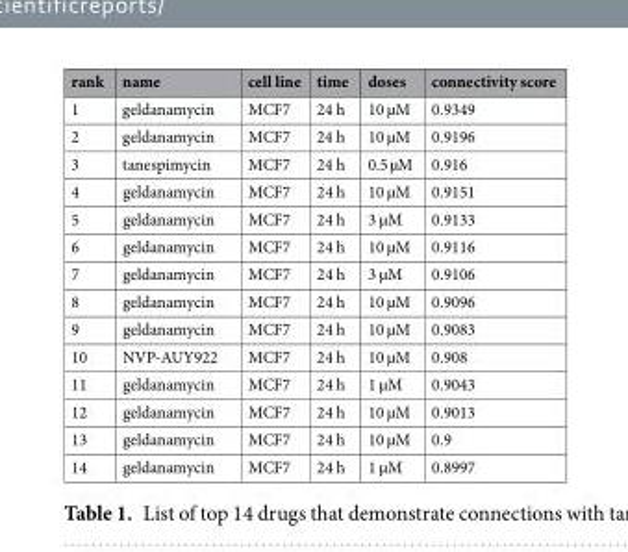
<table><thead><tr><td>rank</td><td>name</td><td>cell line</td><td>time</td><td>doses</td><td>connectivity score</td></tr></thead><tbody><tr><td>1</td><td>geldanamycin</td><td>MCF7</td><td>24 h</td><td>10 µM</td><td>0.9349</td></tr><tr><td>2</td><td>geldanamycin</td><td>MCF7</td><td>24 h</td><td>10 µM</td><td>0.9196</td></tr><tr><td>3</td><td>tanespimycin</td><td>MCF7</td><td>24 h</td><td>0.5 µM</td><td>0.916</td></tr><tr><td>4</td><td>geldanamycin</td><td>MCF7</td><td>24 h</td><td>10 µM</td><td>0.9151</td></tr><tr><td>5</td><td>geldanamycin</td><td>MCF7</td><td>24 h</td><td>3 µM</td><td>0.9133</td></tr><tr><td>6</td><td>geldanamycin</td><td>MCF7</td><td>24 h</td><td>10 µM</td><td>0.9116</td></tr><tr><td>7</td><td>geldanamycin</td><td>MCF7</td><td>24 h</td><td>3 µM</td><td>0.9106</td></tr><tr><td>8</td><td>geldanamycin</td><td>MCF7</td><td>24 h</td><td>10 µM</td><td>0.9096</td></tr><tr><td>9</td><td>geldanamycin</td><td>MCF7</td><td>24 h</td><td>10 µM</td><td>0.9083</td></tr><tr><td>10</td><td>NVP-AUY922</td><td>MCF7</td><td>24 h</td><td>10 µM</td><td>0.908</td></tr><tr><td>11</td><td>geldanamycin</td><td>MCF7</td><td>24 h</td><td>1 µM</td><td>0.9043</td></tr><tr><td>12</td><td>geldanamycin</td><td>MCF7</td><td>24 h</td><td>10 µM</td><td>0.9013</td></tr><tr><td>13</td><td>geldanamycin</td><td>MCF7</td><td>24 h</td><td>10 µM</td><td>0.9</td></tr><tr><td>14</td><td>geldanamycin</td><td>MCF7</td><td>24 h</td><td>1 µM</td><td>0.8997</td></tr></tbody></table>